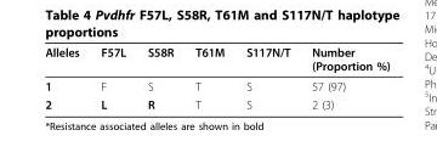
<table><thead><tr><td>Alleles</td><td>F57L</td><td>S58R</td><td>T61M</td><td>S117N/T</td><td>Number (Proportion %)</td></tr></thead><tbody><tr><td>1</td><td>F</td><td>S</td><td>T</td><td>S</td><td>57 (97)</td></tr><tr><td>2</td><td>L</td><td>R</td><td>T</td><td>S</td><td>2 (3)</td></tr></tbody></table>